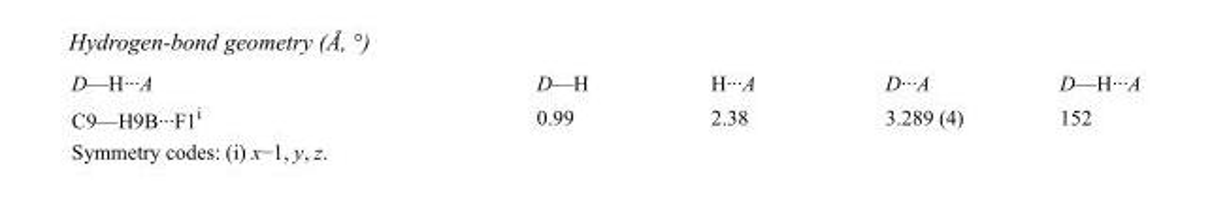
<table><tbody><tr><td>D—H···A</td><td>D—H</td><td>H···A</td><td>D···A</td><td>D—H···A</td></tr><tr><td>C9—H9B···F1<sup>i</sup></td><td>0.99</td><td>2.38</td><td>3.289 (4)</td><td>152</td></tr></tbody></table>